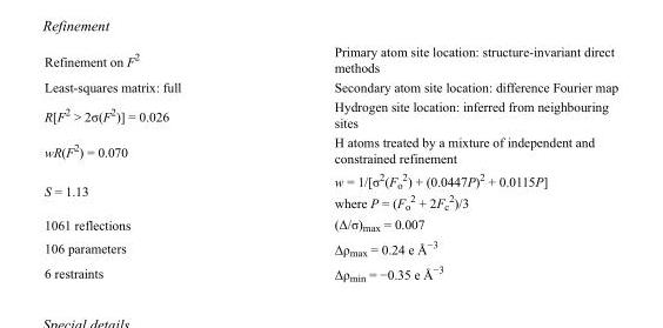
<table><tbody><tr><td>Refinement on F<sup>2</sup></td><td>Primary atom site location: structure-invariant direct methods</td></tr><tr><td>Least-squares matrix: full</td><td>Secondary atom site location: difference Fourier map</td></tr><tr><td>R[F<sup>2</sup> &gt; 2σ(F<sup>2</sup>)] = 0.026</td><td>Hydrogen site location: inferred from neighbouring sites</td></tr><tr><td>wR(F<sup>2</sup>) = 0.070</td><td>H atoms treated by a mixture of independent and constrained refinement</td></tr><tr><td>S = 1.13</td><td>w = 1/[σ<sup>2</sup>(F<sub>o</sub> <sup>2</sup>) + (0.0447P)<sup>2</sup> + 0.0115P] where P = (F<sub>o</sub> <sup>2</sup> + 2F<sub>c</sub> <sup>2</sup>)/3</td></tr><tr><td>1061 reflections</td><td>(Δ/σ)<sub>max</sub> = 0.007</td></tr><tr><td>106 parameters</td><td>Δρ<sub>max</sub> = 0.24 e Å<sup>−3</sup></td></tr><tr><td>6 restraints</td><td>Δρ<sub>min</sub> = −0.35 e Å<sup>−3</sup></td></tr></tbody></table>